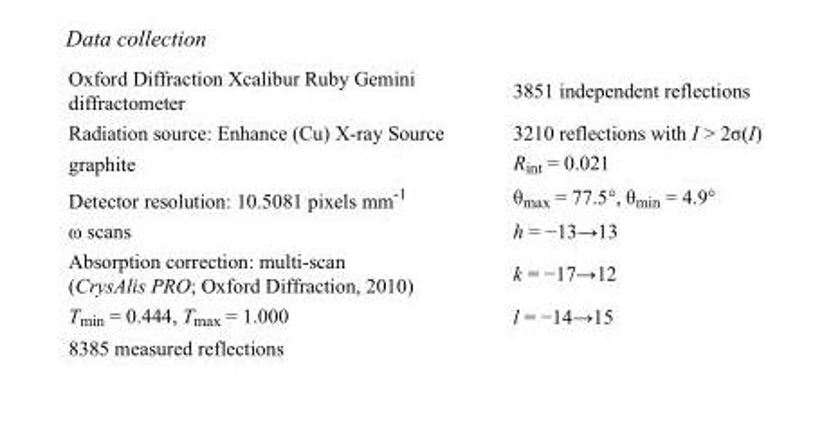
<table><tbody><tr><td>Oxford Diffraction Xcalibur Ruby Gemini diffractometer</td><td>3851 independent reflections</td></tr><tr><td>Radiation source: Enhance (Cu) X-ray Source</td><td>3210 reflections with I &gt; 2σ(I)</td></tr><tr><td>graphite</td><td>R<sub>int</sub> = 0.021</td></tr><tr><td>Detector resolution: 10.5081 pixels mm<sup>-1</sup></td><td>θ<sub>max</sub> = 77.5°, θ<sub>min</sub> = 4.9°</td></tr><tr><td>ω scans</td><td>h = −13→13</td></tr><tr><td>Absorption correction: multi-scan (CrysAlis PRO; Oxford Diffraction, 2010)</td><td>k = −17→12</td></tr><tr><td>T<sub>min</sub> = 0.444, T<sub>max</sub> = 1.000</td><td>l = −14→15</td></tr><tr><td>8385 measured reflections</td><td></td></tr></tbody></table>